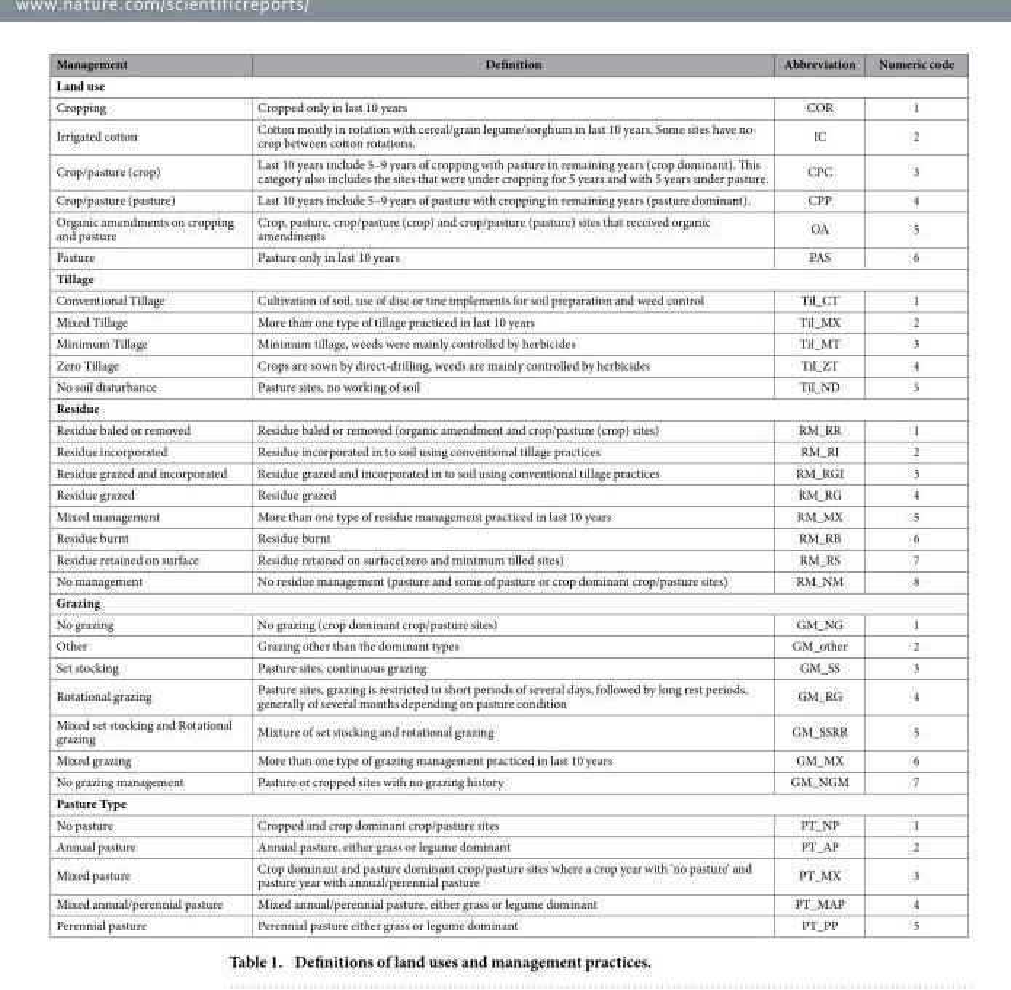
<table><thead><tr><td>Management</td><td>Definition</td><td>Abbreviation</td><td>Numeric code</td></tr><tr><td colspan="4">Land use</td></tr></thead><tbody><tr><td>Cropping</td><td>Cropped only in last 10 years</td><td>COR</td><td>1</td></tr><tr><td>Irrigated cotton</td><td>Cotton mostly in rotation with cereal/grain legume/sorghum in last 10 years. Some sites have no- crop between cotton rotations.</td><td>IC</td><td>2</td></tr><tr><td>Crop/pasture (crop)</td><td>Last 10 years include 5–9 years of cropping with pasture in remaining years (crop dominant). This category also includes the sites that were under cropping for 5 years and with 5 years under pasture.</td><td>CPC</td><td>3</td></tr><tr><td>Crop/pasture (pasture)</td><td>Last 10 years include 5–9 years of pasture with cropping in remaining years (pasture dominant).</td><td>CPP</td><td>4</td></tr><tr><td>Organic amendments on cropping and pasture</td><td>Crop, pasture, crop/pasture (crop) and crop/pasture (pasture) sites that received organic amendments</td><td>OA</td><td>5</td></tr><tr><td>Pasture</td><td>Pasture only in last 10 years</td><td>PAS</td><td>6</td></tr><tr><td colspan="4">Tillage</td></tr><tr><td>Conventional Tillage</td><td>Cultivation of soil, use of disc or tine implements for soil preparation and weed control</td><td>Til_CT</td><td>1</td></tr><tr><td>Mixed Tillage</td><td>More than one type of tillage practiced in last 10 years</td><td>Til_MX</td><td>2</td></tr><tr><td>Minimum Tillage</td><td>Minimum tillage, weeds were mainly controlled by herbicides</td><td>Til_MT</td><td>3</td></tr><tr><td>Zero Tillage</td><td>Crops are sown by direct-drilling, weeds are mainly controlled by herbicides</td><td>Til_ZT</td><td>4</td></tr><tr><td>No soil disturbance</td><td>Pasture sites, no working of soil</td><td>Til_ND</td><td>5</td></tr><tr><td colspan="4">Residue</td></tr><tr><td>Residue baled or removed</td><td>Residue baled or removed (organic amendment and crop/pasture (crop) sites)</td><td>RM_RR</td><td>1</td></tr><tr><td>Residue incorporated</td><td>Residue incorporated in to soil using conventional tillage practices</td><td>RM_RI</td><td>2</td></tr><tr><td>Residue grazed and incorporated</td><td>Residue grazed and incorporated in to soil using conventional tillage practices</td><td>RM_RGI</td><td>3</td></tr><tr><td>Residue grazed</td><td>Residue grazed</td><td>RM_RG</td><td>4</td></tr><tr><td>Mixed management</td><td>More than one type of residue management practiced in last 10 years</td><td>RM_MX</td><td>5</td></tr><tr><td>Residue burnt</td><td>Residue burnt</td><td>RM_RB</td><td>6</td></tr><tr><td>Residue retained on surface</td><td>Residue retained on surface(zero and minimum tilled sites)</td><td>RM_RS</td><td>7</td></tr><tr><td>No management</td><td>No residue management (pasture and some of pasture or crop dominant crop/pasture sites)</td><td>RM_NM</td><td>8</td></tr><tr><td colspan="4">Grazing</td></tr><tr><td>No grazing</td><td>No grazing (crop dominant crop/pasture sites)</td><td>GM_NG</td><td>1</td></tr><tr><td>Other</td><td>Grazing other than the dominant types</td><td>GM_other</td><td>2</td></tr><tr><td>Set stocking</td><td>Pasture sites, continuous grazing</td><td>GM_SS</td><td>3</td></tr><tr><td>Rotational grazing</td><td>Pasture sites, grazing is restricted to short periods of several days, followed by long rest periods, generally of several months depending on pasture condition</td><td>GM_RG</td><td>4</td></tr><tr><td>Mixed set stocking and Rotational grazing</td><td>Mixture of set stocking and rotational grazing</td><td>GM_SSRR</td><td>5</td></tr><tr><td>Mixed grazing</td><td>More than one type of grazing management practiced in last 10 years</td><td>GM_MX</td><td>6</td></tr><tr><td>No grazing management</td><td>Pasture or cropped sites with no grazing history</td><td>GM_NGM</td><td>7</td></tr><tr><td colspan="4">Pasture Type</td></tr><tr><td>No pasture</td><td>Cropped and crop dominant crop/pasture sites</td><td>PT_NP</td><td>1</td></tr><tr><td>Annual pasture</td><td>Annual pasture, either grass or legume dominant</td><td>PT_AP</td><td>2</td></tr><tr><td>Mixed pasture</td><td>Crop dominant and pasture dominant crop/pasture sites where a crop year with ‘no pasture’ and pasture year with annual/perennial pasture</td><td>PT_MX</td><td>3</td></tr><tr><td>Mixed annual/perennial pasture</td><td>Mixed annual/perennial pasture, either grass or legume dominant</td><td>PT_MAP</td><td>4</td></tr><tr><td>Perennial pasture</td><td>Perennial pasture either grass or legume dominant</td><td>PT_PP</td><td>5</td></tr></tbody></table>